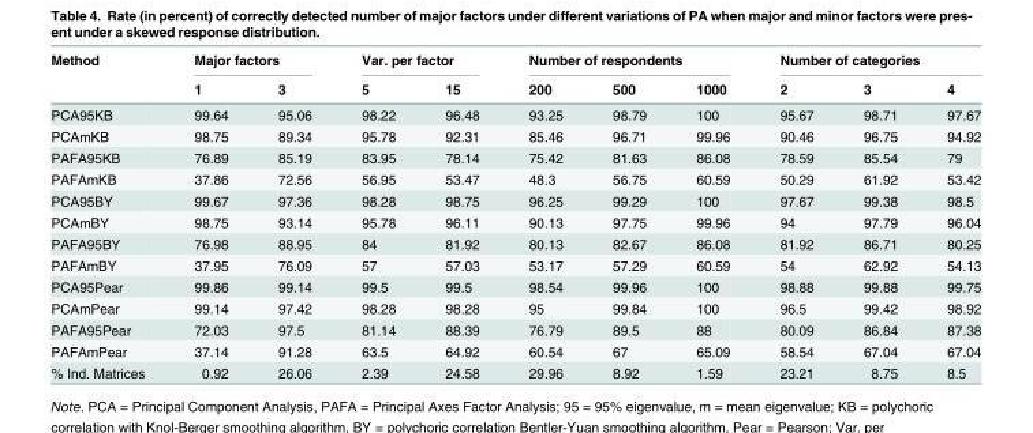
<table><thead><tr><td rowspan="2">Method</td><td colspan="2">Major factors</td><td colspan="2">Var. per factor</td><td colspan="3">Number of respondents</td><td colspan="3">Number of categories</td></tr><tr><td>1</td><td>3</td><td>5</td><td>15</td><td>200</td><td>500</td><td>1000</td><td>2</td><td>3</td><td>4</td></tr></thead><tbody><tr><td>PCA95KB</td><td>99.64</td><td>95.06</td><td>98.22</td><td>96.48</td><td>93.25</td><td>98.79</td><td>100</td><td>95.67</td><td>98.71</td><td>97.67</td></tr><tr><td>PCAmKB</td><td>98.75</td><td>89.34</td><td>95.78</td><td>92.31</td><td>85.46</td><td>96.71</td><td>99.96</td><td>90.46</td><td>96.75</td><td>94.92</td></tr><tr><td>PAFA95KB</td><td>76.89</td><td>85.19</td><td>83.95</td><td>78.14</td><td>75.42</td><td>81.63</td><td>86.08</td><td>78.59</td><td>85.54</td><td>79</td></tr><tr><td>PAFAmKB</td><td>37.86</td><td>72.56</td><td>56.95</td><td>53.47</td><td>48.3</td><td>56.75</td><td>60.59</td><td>50.29</td><td>61.92</td><td>53.42</td></tr><tr><td>PCA95BY</td><td>99.67</td><td>97.36</td><td>98.28</td><td>98.75</td><td>96.25</td><td>99.29</td><td>100</td><td>97.67</td><td>99.38</td><td>98.5</td></tr><tr><td>PCAmBY</td><td>98.75</td><td>93.14</td><td>95.78</td><td>96.11</td><td>90.13</td><td>97.75</td><td>99.96</td><td>94</td><td>97.79</td><td>96.04</td></tr><tr><td>PAFA95BY</td><td>76.98</td><td>88.95</td><td>84</td><td>81.92</td><td>80.13</td><td>82.67</td><td>86.08</td><td>81.92</td><td>86.71</td><td>80.25</td></tr><tr><td>PAFAmBY</td><td>37.95</td><td>76.09</td><td>57</td><td>57.03</td><td>53.17</td><td>57.29</td><td>60.59</td><td>54</td><td>62.92</td><td>54.13</td></tr><tr><td>PCA95Pear</td><td>99.86</td><td>99.14</td><td>99.5</td><td>99.5</td><td>98.54</td><td>99.96</td><td>100</td><td>98.88</td><td>99.88</td><td>99.75</td></tr><tr><td>PCAmPear</td><td>99.14</td><td>97.42</td><td>98.28</td><td>98.28</td><td>95</td><td>99.84</td><td>100</td><td>96.5</td><td>99.42</td><td>98.92</td></tr><tr><td>PAFA95Pear</td><td>72.03</td><td>97.5</td><td>81.14</td><td>88.39</td><td>76.79</td><td>89.5</td><td>88</td><td>80.09</td><td>86.84</td><td>87.38</td></tr><tr><td>PAFAmPear</td><td>37.14</td><td>91.28</td><td>63.5</td><td>64.92</td><td>60.54</td><td>67</td><td>65.09</td><td>58.54</td><td>67.04</td><td>67.04</td></tr><tr><td>% Ind. Matrices</td><td>0.92</td><td>26.06</td><td>2.39</td><td>24.58</td><td>29.96</td><td>8.92</td><td>1.59</td><td>23.21</td><td>8.75</td><td>8.5</td></tr></tbody></table>